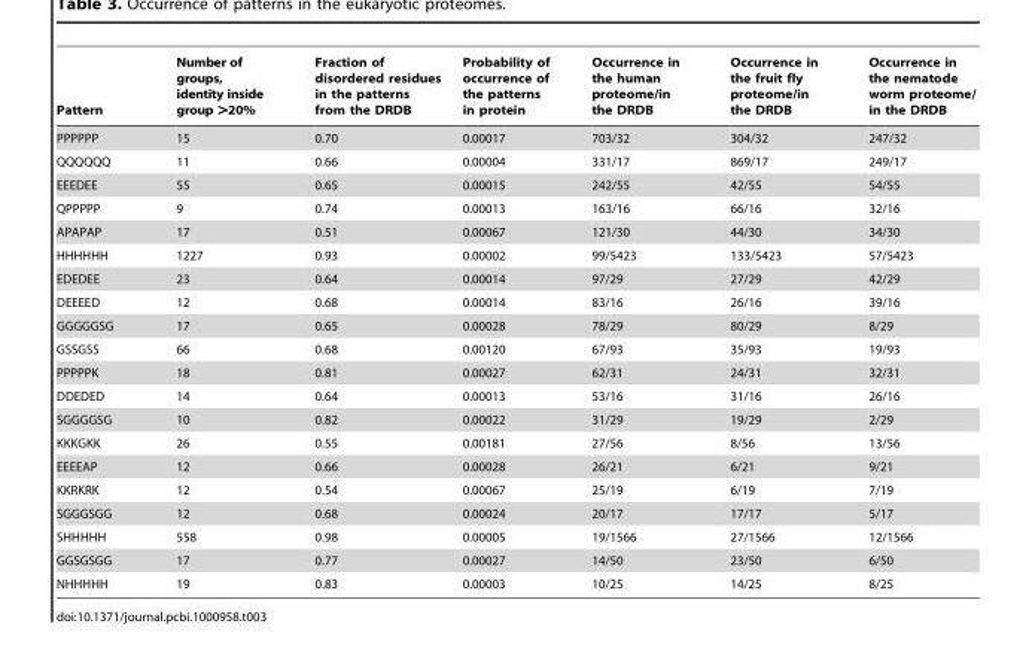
<table><thead><tr><td>Pattern</td><td>Number of groups, identity inside group &gt;20%</td><td>Fraction of disordered residues in the patterns from the DRDB</td><td>Probability of occurrence of the patterns in protein</td><td>Occurrence in the human proteome/in the DRDB</td><td>Occurrence in the fruit fly proteome/in the DRDB</td><td>Occurrence in the nematode worm proteome/ in the DRDB</td></tr></thead><tbody><tr><td>PPPPPP</td><td>15</td><td>0.70</td><td>0.00017</td><td>703/32</td><td>304/32</td><td>247/32</td></tr><tr><td>QQQQQQ</td><td>11</td><td>0.66</td><td>0.00004</td><td>331/17</td><td>869/17</td><td>249/17</td></tr><tr><td>EEEDEE</td><td>55</td><td>0.65</td><td>0.00015</td><td>242/55</td><td>42/55</td><td>54/55</td></tr><tr><td>QPPPPP</td><td>9</td><td>0.74</td><td>0.00013</td><td>163/16</td><td>66/16</td><td>32/16</td></tr><tr><td>APAPAP</td><td>17</td><td>0.51</td><td>0.00067</td><td>121/30</td><td>44/30</td><td>34/30</td></tr><tr><td>HHHHHH</td><td>1227</td><td>0.93</td><td>0.00002</td><td>99/5423</td><td>133/5423</td><td>57/5423</td></tr><tr><td>EDEDEE</td><td>23</td><td>0.64</td><td>0.00014</td><td>97/29</td><td>27/29</td><td>42/29</td></tr><tr><td>DEEEED</td><td>12</td><td>0.68</td><td>0.00014</td><td>83/16</td><td>26/16</td><td>39/16</td></tr><tr><td>GGGGGSG</td><td>17</td><td>0.65</td><td>0.00028</td><td>78/29</td><td>80/29</td><td>8/29</td></tr><tr><td>GSSGSS</td><td>66</td><td>0.68</td><td>0.00120</td><td>67/93</td><td>35/93</td><td>19/93</td></tr><tr><td>PPPPPK</td><td>18</td><td>0.81</td><td>0.00027</td><td>62/31</td><td>24/31</td><td>32/31</td></tr><tr><td>DDEDED</td><td>14</td><td>0.64</td><td>0.00013</td><td>53/16</td><td>31/16</td><td>26/16</td></tr><tr><td>SGGGGSG</td><td>10</td><td>0.82</td><td>0.00022</td><td>31/29</td><td>19/29</td><td>2/29</td></tr><tr><td>KKKGKK</td><td>26</td><td>0.55</td><td>0.00181</td><td>27/56</td><td>8/56</td><td>13/56</td></tr><tr><td>EEEEAP</td><td>12</td><td>0.66</td><td>0.00028</td><td>26/21</td><td>6/21</td><td>9/21</td></tr><tr><td>KKRKRK</td><td>12</td><td>0.54</td><td>0.00067</td><td>25/19</td><td>6/19</td><td>7/19</td></tr><tr><td>SGGGSGG</td><td>12</td><td>0.68</td><td>0.00024</td><td>20/17</td><td>17/17</td><td>5/17</td></tr><tr><td>SHHHHH</td><td>558</td><td>0.98</td><td>0.00005</td><td>19/1566</td><td>27/1566</td><td>12/1566</td></tr><tr><td>GGSGSGG</td><td>17</td><td>0.77</td><td>0.00027</td><td>14/50</td><td>23/50</td><td>6/50</td></tr><tr><td>NHHHHH</td><td>19</td><td>0.83</td><td>0.00003</td><td>10/25</td><td>14/25</td><td>8/25</td></tr></tbody></table>